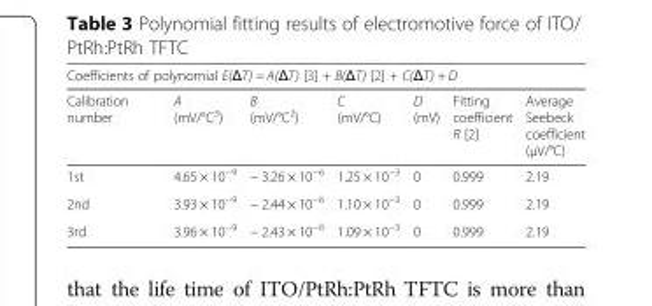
<table><thead><tr><td colspan="7">Coefficients of polynomial E(ΔT) = A(ΔT) [3] + B(ΔT) [2] + C(ΔT) + D</td></tr><tr><td>Calibration number</td><td>A (mV/°C<sup>3</sup>)</td><td>B (mV/°C<sup>2</sup>)</td><td>C (mV/°C)</td><td>D (mV)</td><td>Fitting coefficient R [2]</td><td>Average Seebeck coefficient (μV/°C)</td></tr></thead><tbody><tr><td>1st</td><td>4.65 × 10<sup>−9</sup></td><td>− 3.26 × 10<sup>−6</sup></td><td>1.25 × 10<sup>−3</sup></td><td>0</td><td>0.999</td><td>2.19</td></tr><tr><td>2nd</td><td>3.93 × 10<sup>−9</sup></td><td>− 2.44 × 10<sup>−6</sup></td><td>1.10 × 10<sup>−3</sup></td><td>0</td><td>0.999</td><td>2.19</td></tr><tr><td>3rd</td><td>3.96 × 10<sup>−9</sup></td><td>− 2.43 × 10<sup>−6</sup></td><td>1.09 × 10<sup>−3</sup></td><td>0</td><td>0.999</td><td>2.19</td></tr></tbody></table>